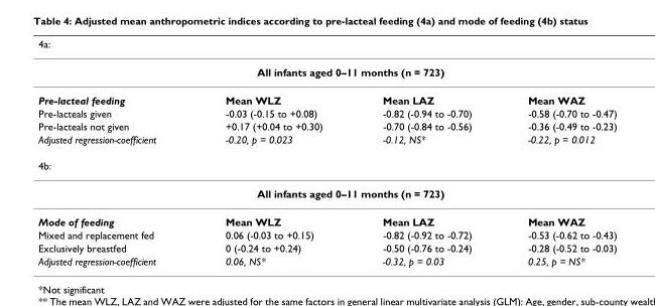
<table><thead><tr><td>4a:</td><td></td><td></td><td></td></tr></thead><tbody><tr><td colspan="4">All infants aged 0–11 months (n = 723)</td></tr><tr><td>Pre-lacteal feeding</td><td>Mean WLZ</td><td>Mean LAZ</td><td>Mean WAZ</td></tr><tr><td>Pre-lacteals given</td><td>-0.03 (-0.15 to +0.08)</td><td>-0.82 (-0.94 to -0.70)</td><td>-0.58 (-0.70 to -0.47)</td></tr><tr><td>Pre-lacteals not given</td><td>+0.17 (+0.04 to +0.30)</td><td>-0.70 (-0.84 to -0.56)</td><td>-0.36 (-0.49 to -0.23)</td></tr><tr><td>Adjusted regression-coefficient</td><td>-0.20, p = 0.023</td><td>-0.12, NS*</td><td>-0.22, p = 0.012</td></tr><tr><td colspan="4">4b:</td></tr><tr><td colspan="4">All infants aged 0–11 months (n = 723)</td></tr><tr><td>Mode of feeding</td><td>Mean WLZ</td><td>Mean LAZ</td><td>Mean WAZ</td></tr><tr><td>Mixed and replacement fed</td><td>0.06 (-0.03 to +0.15)</td><td>-0.82 (-0.92 to -0.72)</td><td>-0.53 (-0.62 to -0.43)</td></tr><tr><td>Exclusively breastfed</td><td>0 (-0.24 to +0.24)</td><td>-0.50 (-0.76 to -0.24)</td><td>-0.28 (-0.52 to -0.03)</td></tr><tr><td>Adjusted regression-coefficient</td><td>0.06, NS*</td><td>-0.32, p = 0.03</td><td>0.25, p = NS*</td></tr></tbody></table>